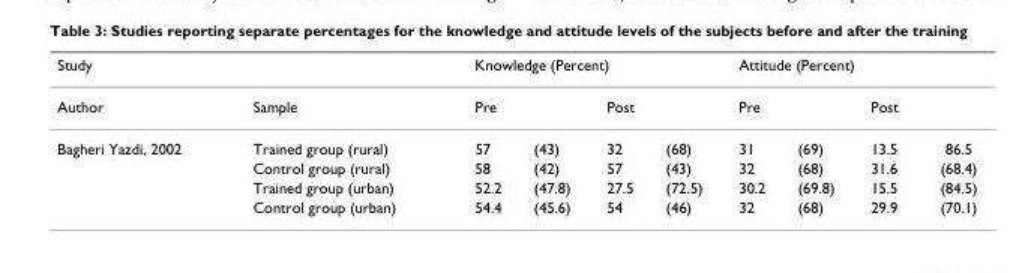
<table><thead><tr><td rowspan="3">Study Author Bagheri Yazdi, 2002</td><td rowspan="3">Sample Trained group (rural)</td><td colspan="4">Knowledge (Percent)</td><td colspan="4">Attitude (Percent)</td></tr><tr><td colspan="2">Pre</td><td colspan="2">Post</td><td colspan="2">Pre</td><td colspan="2">Post</td></tr><tr><td>57</td><td>(43)</td><td>32</td><td>(68)</td><td>31</td><td>(69)</td><td>13.5</td><td>86.5</td></tr></thead><tbody><tr><td></td><td>Control group (rural)</td><td>58</td><td>(42)</td><td>57</td><td>(43)</td><td>32</td><td>(68)</td><td>31.6</td><td>(68.4)</td></tr><tr><td></td><td>Trained group (urban)</td><td>52.2</td><td>(47.8)</td><td>27.5</td><td>(72.5)</td><td>30.2</td><td>(69.8)</td><td>15.5</td><td>(84.5)</td></tr><tr><td></td><td>Control group (urban)</td><td>54.4</td><td>(45.6)</td><td>54</td><td>(46)</td><td>32</td><td>(68)</td><td>29.9</td><td>(70.1)</td></tr></tbody></table>